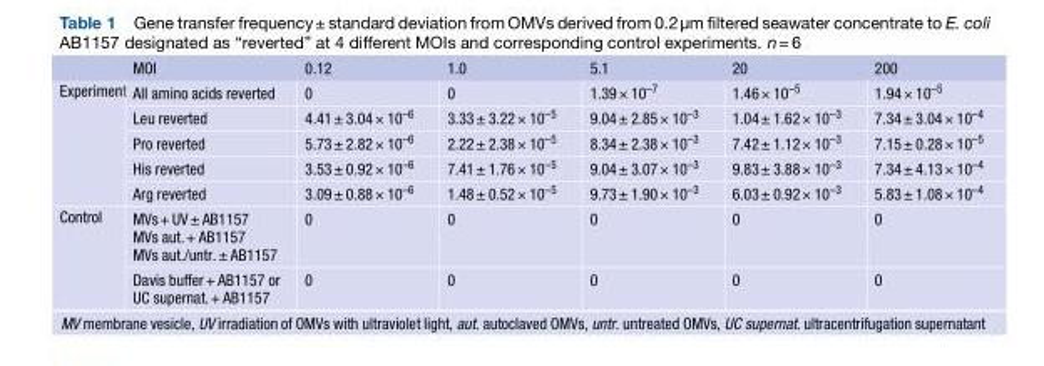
<table><thead><tr><td></td><td>MOI</td><td>0.12</td><td>1.0</td><td>5.1</td><td>20</td><td>200</td></tr></thead><tbody><tr><td rowspan="5">Experiment</td><td>All amino acids reverted</td><td>0</td><td>0</td><td>1.39× 10<sup>–7</sup></td><td>1.46× 10<sup>–5</sup></td><td>1.94× 10<sup>–5</sup></td></tr><tr><td>Leu reverted</td><td>4.41± 3.04× 10<sup>–6</sup></td><td>3.33± 3.22× 10<sup>–5</sup></td><td>9.04± 2.85× 10<sup>–3</sup></td><td>1.04± 1.62× 10<sup>–3</sup></td><td>7.34± 3.04× 10<sup>–4</sup></td></tr><tr><td>Pro reverted</td><td>5.73± 2.82× 10<sup>–6</sup></td><td>2.22± 2.38× 10<sup>–5</sup></td><td>8.34± 2.38× 10<sup>–3</sup></td><td>7.42± 1.12× 10<sup>–3</sup></td><td>7.15± 0.28× 10<sup>–5</sup></td></tr><tr><td>His reverted</td><td>3.53± 0.92× 10<sup>–6</sup></td><td>7.41± 1.76× 10<sup>–5</sup></td><td>9.04± 3.07× 10<sup>–3</sup></td><td>9.83± 3.88× 10<sup>–3</sup></td><td>7.34± 4.13× 10<sup>–4</sup></td></tr><tr><td>Arg reverted</td><td>3.09± 0.88× 10<sup>–6</sup></td><td>1.48± 0.52× 10<sup>–5</sup></td><td>9.73± 1.90× 10<sup>–3</sup></td><td>6.03± 0.92× 10<sup>–3</sup></td><td>5.83± 1.08× 10<sup>–4</sup></td></tr><tr><td rowspan="2">Control</td><td>MVs+ UV± AB1157 MVs aut.+ AB1157 MVs aut./untr.± AB1157</td><td>0</td><td>0</td><td>0</td><td>0</td><td>0</td></tr><tr><td>Davis buffer+ AB1157 or UC supernat.+ AB1157</td><td>0</td><td>0</td><td>0</td><td>0</td><td>0</td></tr></tbody></table>